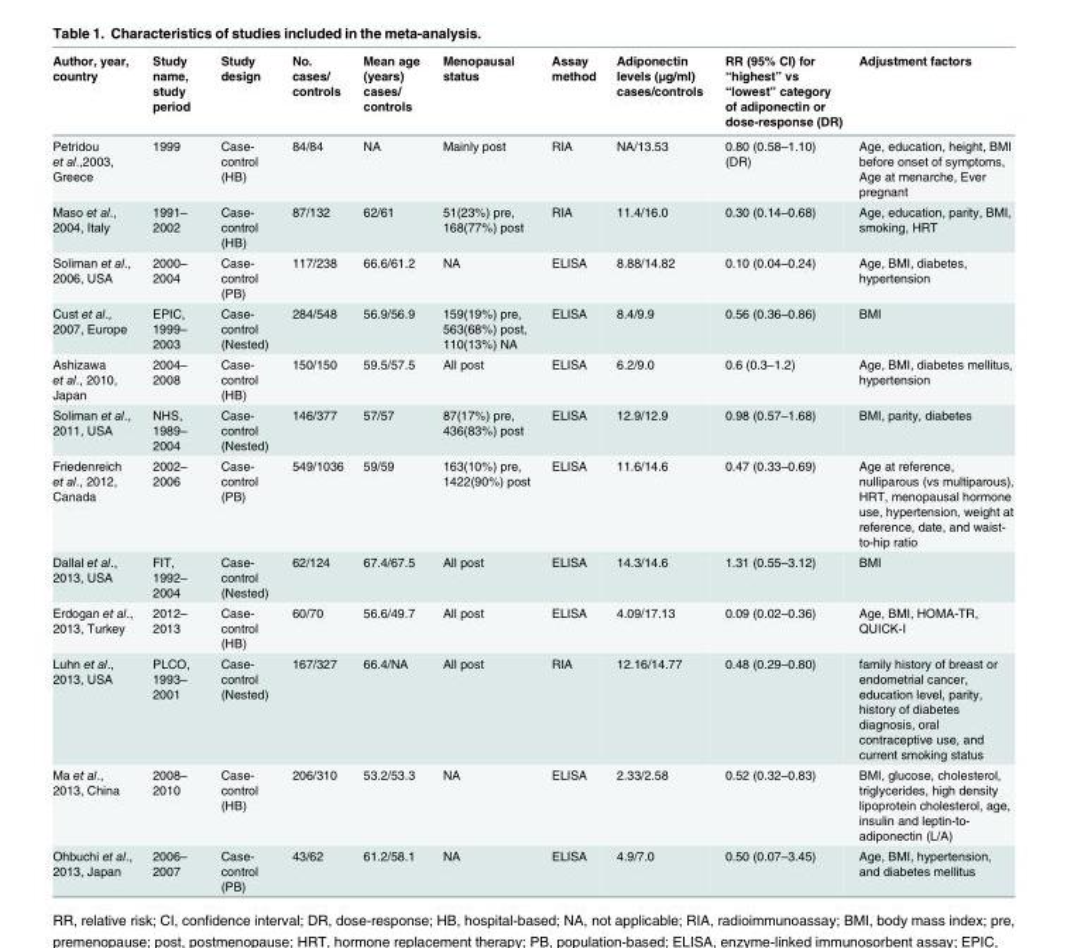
<table><thead><tr><td>Author, year, country</td><td>Study name, study period</td><td>Study design</td><td>No. cases/ controls</td><td>Mean age (years) cases/ controls</td><td>Menopausal status</td><td>Assay method</td><td>Adiponectin levels (µg/ml) cases/controls</td><td>RR (95% CI) for “highest” vs “lowest” category of adiponectin or dose-response (DR)</td><td>Adjustment factors</td></tr></thead><tbody><tr><td>Petridou et al.,2003, Greece</td><td>1999</td><td>Case- control (HB)</td><td>84/84</td><td>NA</td><td>Mainly post</td><td>RIA</td><td>NA/13.53</td><td>0.80 (0.58–1.10) (DR)</td><td>Age, education, height, BMI before onset of symptoms, Age at menarche, Ever pregnant</td></tr><tr><td>Maso et al., 2004, Italy</td><td>1991– 2002</td><td>Case- control (HB)</td><td>87/132</td><td>62/61</td><td>51(23%) pre, 168(77%) post</td><td>RIA</td><td>11.4/16.0</td><td>0.30 (0.14–0.68)</td><td>Age, education, parity, BMI, smoking, HRT</td></tr><tr><td>Soliman et al., 2006, USA</td><td>2000– 2004</td><td>Case- control (PB)</td><td>117/238</td><td>66.6/61.2</td><td>NA</td><td>ELISA</td><td>8.88/14.82</td><td>0.10 (0.04–0.24)</td><td>Age, BMI, diabetes, hypertension</td></tr><tr><td>Cust et al., 2007, Europe</td><td>EPIC, 1999– 2003</td><td>Case- control (Nested)</td><td>284/548</td><td>56.9/56.9</td><td>159(19%) pre, 563(68%) post, 110(13%) NA</td><td>ELISA</td><td>8.4/9.9</td><td>0.56 (0.36–0.86)</td><td>BMI</td></tr><tr><td>Ashizawa et al., 2010, Japan</td><td>2004– 2008</td><td>Case- control (HB)</td><td>150/150</td><td>59.5/57.5</td><td>All post</td><td>ELISA</td><td>6.2/9.0</td><td>0.6 (0.3–1.2)</td><td>Age, BMI, diabetes mellitus, hypertension</td></tr><tr><td>Soliman et al., 2011, USA</td><td>NHS, 1989– 2004</td><td>Case- control (Nested)</td><td>146/377</td><td>57/57</td><td>87(17%) pre, 436(83%) post</td><td>ELISA</td><td>12.9/12.9</td><td>0.98 (0.57–1.68)</td><td>BMI, parity, diabetes</td></tr><tr><td>Friedenreich et al., 2012, Canada</td><td>2002– 2006</td><td>Case- control (PB)</td><td>549/1036</td><td>59/59</td><td>163(10%) pre, 1422(90%) post</td><td>ELISA</td><td>11.6/14.6</td><td>0.47 (0.33–0.69)</td><td>Age at reference, nulliparous (vs multiparous), HRT, menopausal hormone use, hypertension, weight at reference, date, and waist- to-hip ratio</td></tr><tr><td>Dallal et al., 2013, USA</td><td>FIT, 1992– 2004</td><td>Case- control (Nested)</td><td>62/124</td><td>67.4/67.5</td><td>All post</td><td>ELISA</td><td>14.3/14.6</td><td>1.31 (0.55–3.12)</td><td>BMI</td></tr><tr><td>Erdogan et al., 2013, Turkey</td><td>2012– 2013</td><td>Case- control (HB)</td><td>60/70</td><td>56.6/49.7</td><td>All post</td><td>ELISA</td><td>4.09/17.13</td><td>0.09 (0.02–0.36)</td><td>Age, BMI, HOMA-TR, QUICK-I</td></tr><tr><td>Luhn et al., 2013, USA</td><td>PLCO, 1993– 2001</td><td>Case- control (Nested)</td><td>167/327</td><td>66.4/NA</td><td>All post</td><td>RIA</td><td>12.16/14.77</td><td>0.48 (0.29–0.80)</td><td>family history of breast or endometrial cancer, education level, parity, history of diabetes diagnosis, oral contraceptive use, and current smoking status</td></tr><tr><td>Ma et al., 2013, China</td><td>2008– 2010</td><td>Case- control (HB)</td><td>206/310</td><td>53.2/53.3</td><td>NA</td><td>ELISA</td><td>2.33/2.58</td><td>0.52 (0.32–0.83)</td><td>BMI, glucose, cholesterol, triglycerides, high density lipoprotein cholesterol, age, insulin and leptin-to- adiponectin (L/A)</td></tr><tr><td>Ohbuchi et al., 2013, Japan</td><td>2006– 2007</td><td>Case- control (PB)</td><td>43/62</td><td>61.2/58.1</td><td>NA</td><td>ELISA</td><td>4.9/7.0</td><td>0.50 (0.07–3.45)</td><td>Age, BMI, hypertension, and diabetes mellitus</td></tr></tbody></table>